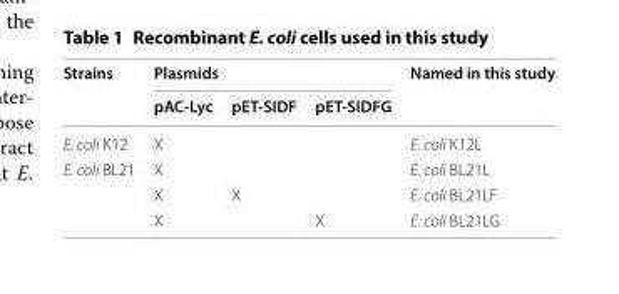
<table><thead><tr><td rowspan="2">Strains</td><td colspan="3">Plasmids</td><td rowspan="2">Named in this study</td></tr><tr><td>pAC-Lyc</td><td>pET-SIDF</td><td>pET-SIDFG</td></tr></thead><tbody><tr><td>E. coli K12</td><td>X</td><td></td><td></td><td>E. coli K12L</td></tr><tr><td rowspan="3">E. coli BL21</td><td>X</td><td></td><td></td><td>E. coli BL21L</td></tr><tr><td>X</td><td>X</td><td></td><td>E. coli BL21LF</td></tr><tr><td>X</td><td></td><td>X</td><td>E. coli BL21LG</td></tr></tbody></table>